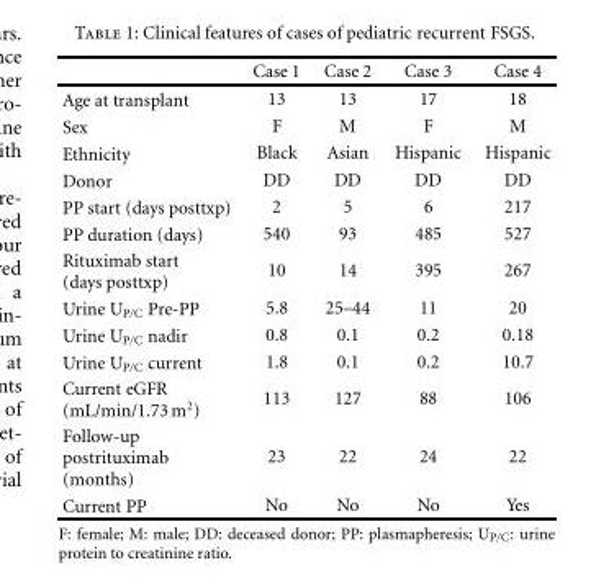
<table><thead><tr><td></td><td>Case 1</td><td>Case 2</td><td>Case 3</td><td>Case 4</td></tr></thead><tbody><tr><td>Age at transplant</td><td>13</td><td>13</td><td>17</td><td>18</td></tr><tr><td>Sex</td><td>F</td><td>M</td><td>F</td><td>M</td></tr><tr><td>Ethnicity</td><td>Black</td><td>Asian</td><td>Hispanic</td><td>Hispanic</td></tr><tr><td>Donor</td><td>DD</td><td>DD</td><td>DD</td><td>DD</td></tr><tr><td>PP start (days posttxp)</td><td>2</td><td>5</td><td>6</td><td>217</td></tr><tr><td>PP duration (days)</td><td>540</td><td>93</td><td>485</td><td>527</td></tr><tr><td>Rituximab start (days posttxp)</td><td>10</td><td>14</td><td>395</td><td>267</td></tr><tr><td>Urine U<sub>P/C</sub> Pre-PP</td><td>5.8</td><td>25–44</td><td>11</td><td>20</td></tr><tr><td>Urine U<sub>P/C</sub> nadir</td><td>0.8</td><td>0.1</td><td>0.2</td><td>0.18</td></tr><tr><td>Urine U<sub>P/C</sub> current</td><td>1.8</td><td>0.1</td><td>0.2</td><td>10.7</td></tr><tr><td>Current eGFR (mL/min/1.73m<sup>2</sup>)</td><td>113</td><td>127</td><td>88</td><td>106</td></tr><tr><td>Follow-up postrituximab (months)</td><td>23</td><td>22</td><td>24</td><td>22</td></tr><tr><td>Current PP</td><td>No</td><td>No</td><td>No</td><td>Yes</td></tr></tbody></table>